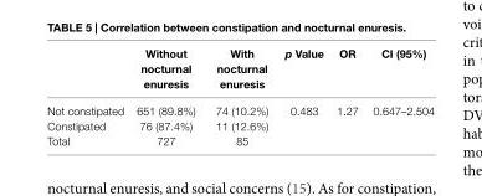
<table><thead><tr><td></td><td>Without nocturnal enuresis</td><td>With nocturnal enuresis</td><td>p Value</td><td>Or</td><td>ci (95%)</td></tr></thead><tbody><tr><td>Not constipated</td><td>651 (89.8%)</td><td>74 (10.2%)</td><td>0.483</td><td>1.27</td><td>0.647–2.504</td></tr><tr><td>Constipated</td><td>76 (87.4%)</td><td>11 (12.6%)</td><td></td><td></td><td></td></tr><tr><td>Total</td><td>727</td><td>85</td><td></td><td></td><td></td></tr></tbody></table>